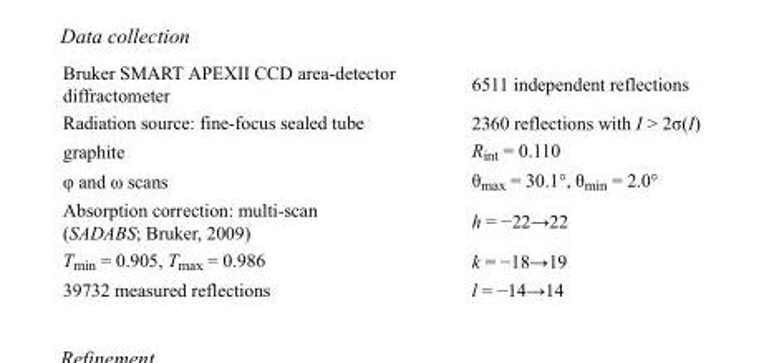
<table><tbody><tr><td>Bruker SMART APEXII CCD area-detector diffractometer</td><td>6511 independent reflections</td></tr><tr><td>Radiation source: fine-focus sealed tube</td><td>2360 reflections with I &gt; 2σ(I)</td></tr><tr><td>graphite</td><td>R<sub>int</sub> = 0.110</td></tr><tr><td>φ and ω scans</td><td>θ<sub>max</sub> = 30.1°, θ<sub>min</sub> = 2.0°</td></tr><tr><td>Absorption correction: multi-scan (SADABS; Bruker, 2009)</td><td>h = −22→22</td></tr><tr><td>T<sub>min</sub> = 0.905, T<sub>max</sub> = 0.986</td><td>k = −18→19</td></tr><tr><td>39732 measured reflections</td><td>l = −14→14</td></tr></tbody></table>